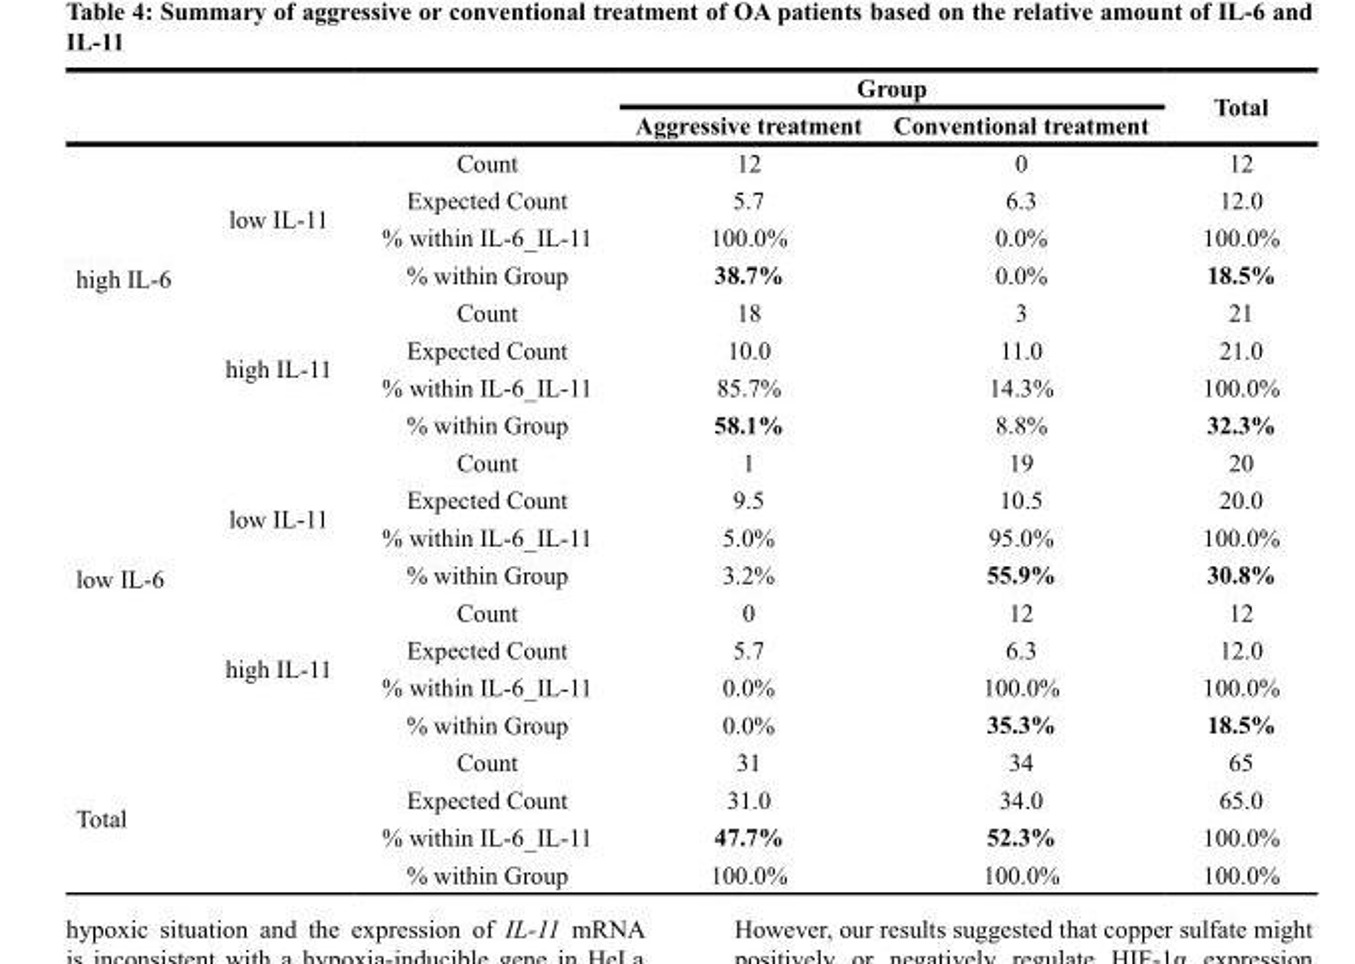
<table><thead><tr><td rowspan="2"></td><td rowspan="2"></td><td rowspan="2"></td><td colspan="2">Group</td><td rowspan="2">Total</td></tr><tr><td>Aggressive treatment</td><td>Conventional treatment</td></tr></thead><tbody><tr><td rowspan="8">high IL-6</td><td rowspan="4">low IL-11</td><td>Count</td><td>12</td><td>0</td><td>12</td></tr><tr><td>Expected Count</td><td>5.7</td><td>6.3</td><td>12.0</td></tr><tr><td>% within IL-6_IL-11</td><td>100.0%</td><td>0.0%</td><td>100.0%</td></tr><tr><td>% within Group</td><td>38.7%</td><td>0.0%</td><td>18.5%</td></tr><tr><td rowspan="4">high IL-11</td><td>Count</td><td>18</td><td>3</td><td>21</td></tr><tr><td>Expected Count</td><td>10.0</td><td>11.0</td><td>21.0</td></tr><tr><td>% within IL-6_IL-11</td><td>85.7%</td><td>14.3%</td><td>100.0%</td></tr><tr><td>% within Group</td><td>58.1%</td><td>8.8%</td><td>32.3%</td></tr><tr><td rowspan="8">low IL-6</td><td rowspan="4">low IL-11</td><td>Count</td><td>1</td><td>19</td><td>20</td></tr><tr><td>Expected Count</td><td>9.5</td><td>10.5</td><td>20.0</td></tr><tr><td>% within IL-6_IL-11</td><td>5.0%</td><td>95.0%</td><td>100.0%</td></tr><tr><td>% within Group</td><td>3.2%</td><td>55.9%</td><td>30.8%</td></tr><tr><td rowspan="4">high IL-11</td><td>Count</td><td>0</td><td>12</td><td>12</td></tr><tr><td>Expected Count</td><td>5.7</td><td>6.3</td><td>12.0</td></tr><tr><td>% within IL-6_IL-11</td><td>0.0%</td><td>100.0%</td><td>100.0%</td></tr><tr><td>% within Group</td><td>0.0%</td><td>35.3%</td><td>18.5%</td></tr><tr><td rowspan="4">Total</td><td rowspan="4"></td><td>Count</td><td>31</td><td>34</td><td>65</td></tr><tr><td>Expected Count</td><td>31.0</td><td>34.0</td><td>65.0</td></tr><tr><td>% within IL-6_IL-11</td><td>47.7%</td><td>52.3%</td><td>100.0%</td></tr><tr><td>% within Group</td><td>100.0%</td><td>100.0%</td><td>100.0%</td></tr></tbody></table>